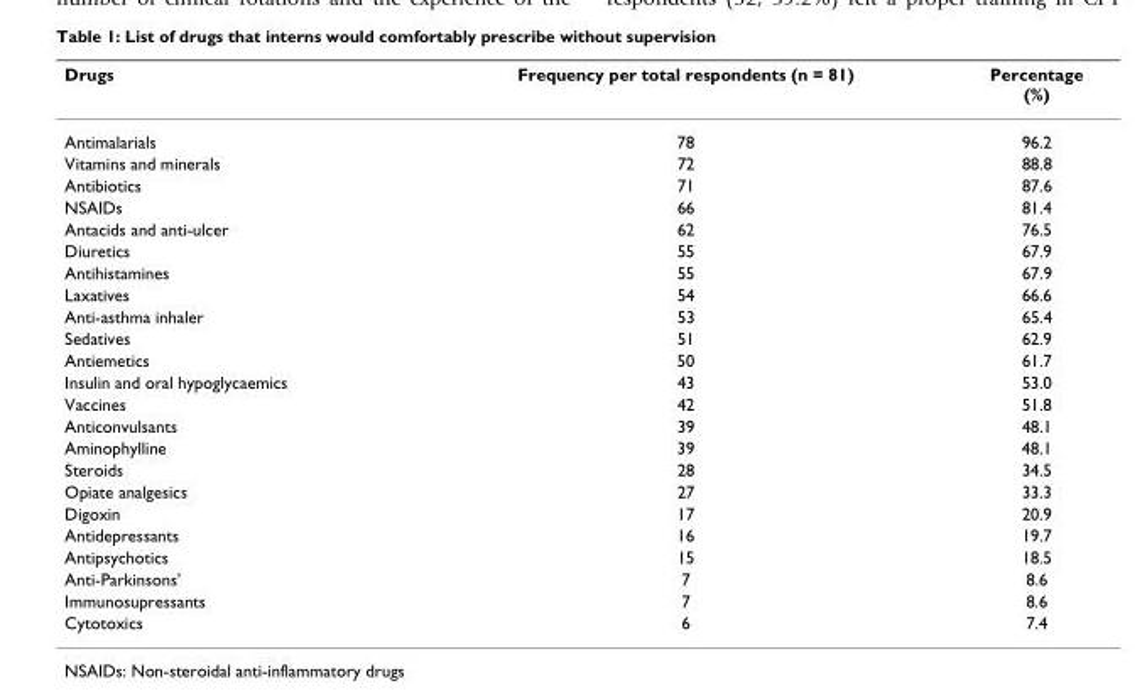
<table><thead><tr><td>Drugs</td><td>Frequency per total respondents (n = 81)</td><td>Percentage (%)</td></tr></thead><tbody><tr><td>Antimalarials</td><td>78</td><td>96.2</td></tr><tr><td>Vitamins and minerals</td><td>72</td><td>88.8</td></tr><tr><td>Antibiotics</td><td>71</td><td>87.6</td></tr><tr><td>NSAIDs</td><td>66</td><td>81.4</td></tr><tr><td>Antacids and anti-ulcer</td><td>62</td><td>76.5</td></tr><tr><td>Diuretics</td><td>55</td><td>67.9</td></tr><tr><td>Antihistamines</td><td>55</td><td>67.9</td></tr><tr><td>Laxatives</td><td>54</td><td>66.6</td></tr><tr><td>Anti-asthma inhaler</td><td>53</td><td>65.4</td></tr><tr><td>Sedatives</td><td>51</td><td>62.9</td></tr><tr><td>Antiemetics</td><td>50</td><td>61.7</td></tr><tr><td>Insulin and oral hypoglycaemics</td><td>43</td><td>53.0</td></tr><tr><td>Vaccines</td><td>42</td><td>51.8</td></tr><tr><td>Anticonvulsants</td><td>39</td><td>48.1</td></tr><tr><td>Aminophylline</td><td>39</td><td>48.1</td></tr><tr><td>Steroids</td><td>28</td><td>34.5</td></tr><tr><td>Opiate analgesics</td><td>27</td><td>33.3</td></tr><tr><td>Digoxin</td><td>17</td><td>20.9</td></tr><tr><td>Antidepressants</td><td>16</td><td>19.7</td></tr><tr><td>Antipsychotics</td><td>15</td><td>18.5</td></tr><tr><td>Anti-Parkinsons&#x27;</td><td>7</td><td>8.6</td></tr><tr><td>Immunosupressants</td><td>7</td><td>8.6</td></tr><tr><td>Cytotoxics</td><td>6</td><td>7.4</td></tr></tbody></table>